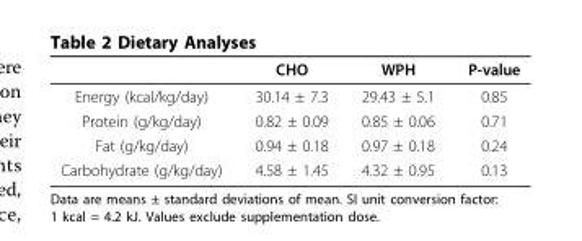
<table><thead><tr><td></td><td>CHO</td><td>WPH</td><td>P-value</td></tr></thead><tbody><tr><td>Energy (kcal/kg/day)</td><td>30.14 ± 7.3</td><td>29.43 ± 5.1</td><td>0.85</td></tr><tr><td>Protein (g/kg/day)</td><td>0.82 ± 0.09</td><td>0.85 ± 0.06</td><td>0.71</td></tr><tr><td>Fat (g/kg/day)</td><td>0.94 ± 0.18</td><td>0.97 ± 0.18</td><td>0.24</td></tr><tr><td>Carbohydrate (g/kg/day)</td><td>4.58 ± 1.45</td><td>4.32 ± 0.95</td><td>0.13</td></tr></tbody></table>